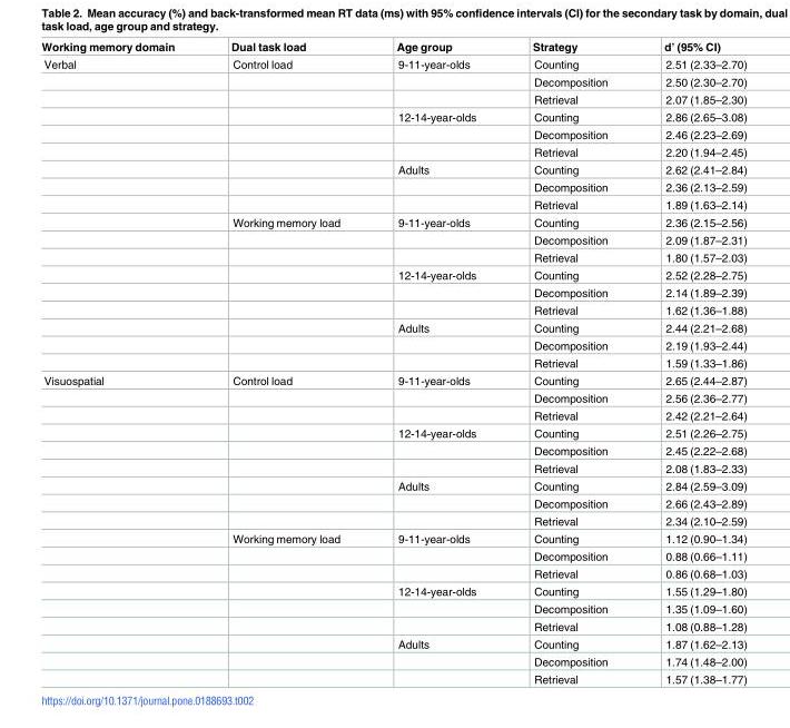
<table><thead><tr><td>Working memory domain</td><td>Dual task load</td><td>Age group</td><td>Strategy</td><td>d’ (95% CI)</td></tr></thead><tbody><tr><td rowspan="18">Verbal</td><td>Control load</td><td>9-11-year-olds</td><td>Counting</td><td>2.51 (2.33–2.70)</td></tr><tr><td></td><td></td><td>Decomposition</td><td>2.50 (2.30–2.70)</td></tr><tr><td></td><td></td><td>Retrieval</td><td>2.07 (1.85–2.30)</td></tr><tr><td></td><td>12-14-year-olds</td><td>Counting</td><td>2.86 (2.65–3.08)</td></tr><tr><td></td><td></td><td>Decomposition</td><td>2.46 (2.23–2.69)</td></tr><tr><td></td><td></td><td>Retrieval</td><td>2.20 (1.94–2.45)</td></tr><tr><td></td><td>Adults</td><td>Counting</td><td>2.62 (2.41–2.84)</td></tr><tr><td></td><td></td><td>Decomposition</td><td>2.36 (2.13–2.59)</td></tr><tr><td></td><td></td><td>Retrieval</td><td>1.89 (1.63–2.14)</td></tr><tr><td>Working memory load</td><td>9-11-year-olds</td><td>Counting</td><td>2.36 (2.15–2.56)</td></tr><tr><td></td><td></td><td>Decomposition</td><td>2.09 (1.87–2.31)</td></tr><tr><td></td><td></td><td>Retrieval</td><td>1.80 (1.57–2.03)</td></tr><tr><td></td><td>12-14-year-olds</td><td>Counting</td><td>2.52 (2.28–2.75)</td></tr><tr><td></td><td></td><td>Decomposition</td><td>2.14 (1.89–2.39)</td></tr><tr><td></td><td></td><td>Retrieval</td><td>1.62 (1.36–1.88)</td></tr><tr><td></td><td>Adults</td><td>Counting</td><td>2.44 (2.21–2.68)</td></tr><tr><td></td><td></td><td>Decomposition</td><td>2.19 (1.93–2.44)</td></tr><tr><td></td><td></td><td>Retrieval</td><td>1.59 (1.33–1.86)</td></tr><tr><td rowspan="18">Visuospatial</td><td>Control load</td><td>9-11-year-olds</td><td>Counting</td><td>2.65 (2.44–2.87)</td></tr><tr><td></td><td></td><td>Decomposition</td><td>2.56 (2.36–2.77)</td></tr><tr><td></td><td></td><td>Retrieval</td><td>2.42 (2.21–2.64)</td></tr><tr><td></td><td>12-14-year-olds</td><td>Counting</td><td>2.51 (2.26–2.75)</td></tr><tr><td></td><td></td><td>Decomposition</td><td>2.45 (2.22–2.68)</td></tr><tr><td></td><td></td><td>Retrieval</td><td>2.08 (1.83–2.33)</td></tr><tr><td></td><td>Adults</td><td>Counting</td><td>2.84 (2.59–3.09)</td></tr><tr><td></td><td></td><td>Decomposition</td><td>2.66 (2.43–2.89)</td></tr><tr><td></td><td></td><td>Retrieval</td><td>2.34 (2.10–2.59)</td></tr><tr><td>Working memory load</td><td>9-11-year-olds</td><td>Counting</td><td>1.12 (0.90–1.34)</td></tr><tr><td></td><td></td><td>Decomposition</td><td>0.88 (0.66–1.11)</td></tr><tr><td></td><td></td><td>Retrieval</td><td>0.86 (0.68–1.03)</td></tr><tr><td></td><td>12-14-year-olds</td><td>Counting</td><td>1.55 (1.29–1.80)</td></tr><tr><td></td><td></td><td>Decomposition</td><td>1.35 (1.09–1.60)</td></tr><tr><td></td><td></td><td>Retrieval</td><td>1.08 (0.88–1.28)</td></tr><tr><td></td><td>Adults</td><td>Counting</td><td>1.87 (1.62–2.13)</td></tr><tr><td></td><td></td><td>Decomposition</td><td>1.74 (1.48–2.00)</td></tr><tr><td></td><td></td><td>Retrieval</td><td>1.57 (1.38–1.77)</td></tr></tbody></table>